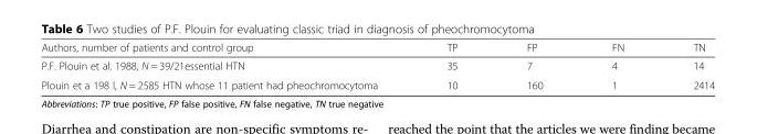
<table><thead><tr><td>Authors, number of patients and control group</td><td>TP</td><td>FP</td><td>FN</td><td>TN</td></tr></thead><tbody><tr><td>P.F. Plouin et al. 1988, N = 39/21essential HTN</td><td>35</td><td>7</td><td>4</td><td>14</td></tr><tr><td>Plouin et a 198 l, N = 2585 HTN whose 11 patient had pheochromocytoma</td><td>10</td><td>160</td><td>1</td><td>2414</td></tr></tbody></table>